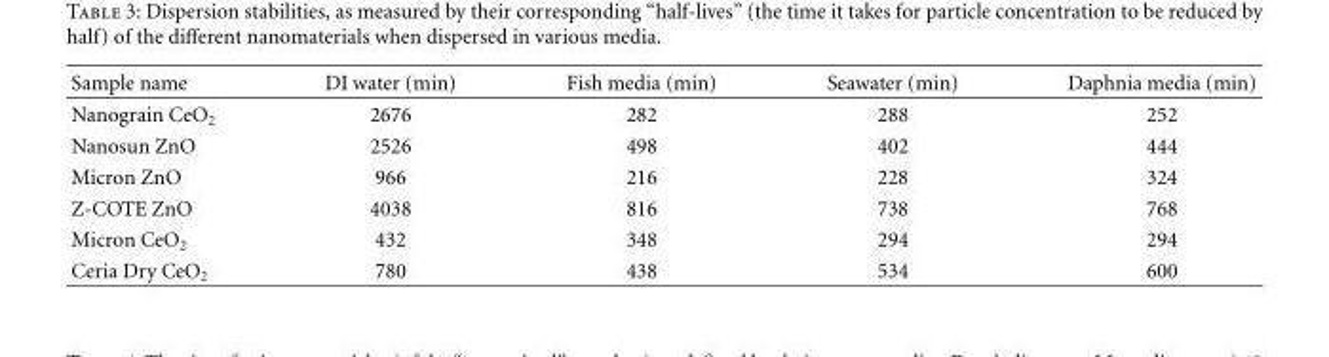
<table><thead><tr><td>Sample name</td><td>DI water (min)</td><td>Fish media (min)</td><td>Seawater (min)</td><td>Daphnia media (min)</td></tr></thead><tbody><tr><td>Nanograin CeO<sub>2</sub></td><td>2676</td><td>282</td><td>288</td><td>252</td></tr><tr><td>Nanosun ZnO</td><td>2526</td><td>498</td><td>402</td><td>444</td></tr><tr><td>Micron ZnO</td><td>966</td><td>216</td><td>228</td><td>324</td></tr><tr><td>Z-COTE ZnO</td><td>4038</td><td>816</td><td>738</td><td>768</td></tr><tr><td>Micron CeO<sub>2</sub></td><td>432</td><td>348</td><td>294</td><td>294</td></tr><tr><td>Ceria Dry CeO<sub>2</sub></td><td>780</td><td>438</td><td>534</td><td>600</td></tr></tbody></table>